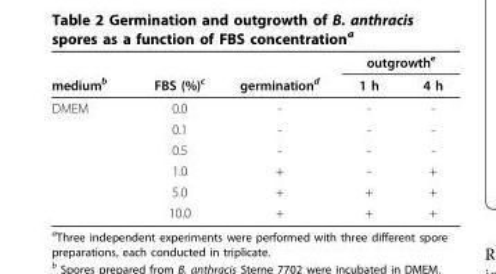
<table><thead><tr><td rowspan="2">medium<sup>b</sup></td><td rowspan="2">FBS (%)<sup>c</sup></td><td rowspan="2">germination<sup>d</sup></td><td colspan="2">outgrowth<sup>e</sup></td></tr><tr><td>1 h</td><td>4 h</td></tr></thead><tbody><tr><td rowspan="6">DMEM</td><td>0.0</td><td>-</td><td>-</td><td>-</td></tr><tr><td>0.1</td><td>-</td><td>-</td><td>-</td></tr><tr><td>0.5</td><td>-</td><td>-</td><td>-</td></tr><tr><td>1.0</td><td>+</td><td>-</td><td>+</td></tr><tr><td>5.0</td><td>+</td><td>+</td><td>+</td></tr><tr><td>10.0</td><td>+</td><td>+</td><td>+</td></tr></tbody></table>